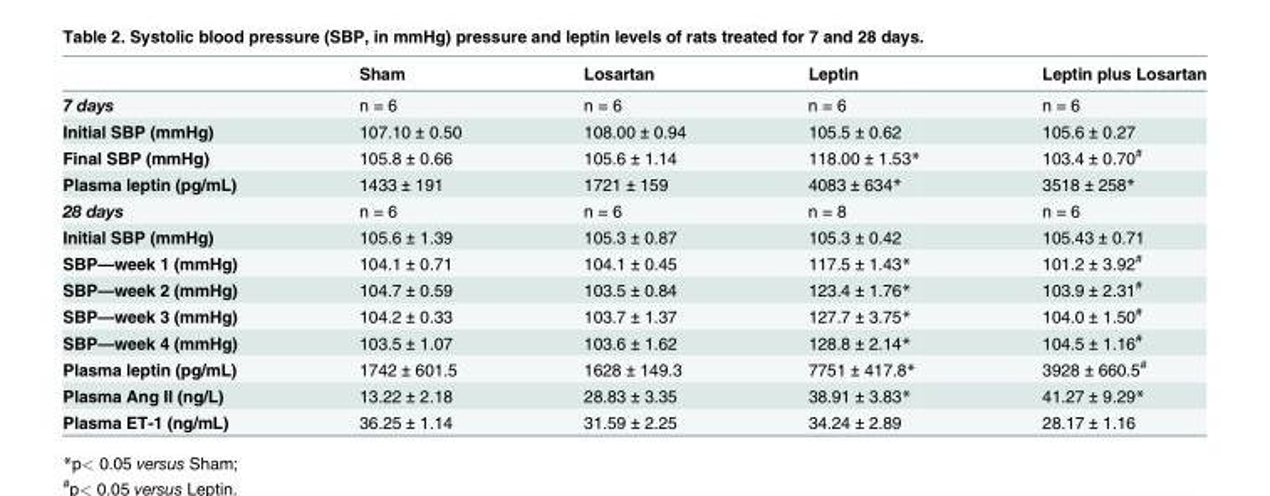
<table><thead><tr><td></td><td>Sham</td><td>Losartan</td><td>Leptin</td><td>Leptin plus Losartan</td></tr></thead><tbody><tr><td>7 days</td><td>n = 6</td><td>n = 6</td><td>n = 6</td><td>n = 6</td></tr><tr><td>Initial SBP (mmHg)</td><td>107.10 ± 0.50</td><td>108.00 ± 0.94</td><td>105.5 ± 0.62</td><td>105.6 ± 0.27</td></tr><tr><td>Final SBP (mmHg)</td><td>105.8 ± 0.66</td><td>105.6 ± 1.14</td><td>118.00 ± 1.53*</td><td>103.4 ± 0.70<sup>#</sup></td></tr><tr><td>Plasma leptin (pg/mL)</td><td>1433 ± 191</td><td>1721 ± 159</td><td>4083 ± 634*</td><td>3518 ± 258*</td></tr><tr><td>28 days</td><td>n = 6</td><td>n = 6</td><td>n = 8</td><td>n = 6</td></tr><tr><td>Initial SBP (mmHg)</td><td>105.6 ± 1.39</td><td>105.3 ± 0.87</td><td>105.3 ± 0.42</td><td>105.43 ± 0.71</td></tr><tr><td>SBP—week 1 (mmHg)</td><td>104.1 ± 0.71</td><td>104.1 ± 0.45</td><td>117.5 ± 1.43*</td><td>101.2 ± 3.92<sup>#</sup></td></tr><tr><td>SBP—week 2 (mmHg)</td><td>104.7 ± 0.59</td><td>103.5 ± 0.84</td><td>123.4 ± 1.76*</td><td>103.9 ± 2.31<sup>#</sup></td></tr><tr><td>SBP—week 3 (mmHg)</td><td>104.2 ± 0.33</td><td>103.7 ± 1.37</td><td>127.7 ± 3.75*</td><td>104.0 ± 1.50<sup>#</sup></td></tr><tr><td>SBP—week 4 (mmHg)</td><td>103.5 ± 1.07</td><td>103.6 ± 1.62</td><td>128.8 ± 2.14*</td><td>104.5 ± 1.16<sup>#</sup></td></tr><tr><td>Plasma leptin (pg/mL)</td><td>1742 ± 601.5</td><td>1628 ± 149.3</td><td>7751 ± 417.8*</td><td>3928 ± 660.5<sup>#</sup></td></tr><tr><td>Plasma Ang II (ng/L)</td><td>13.22 ± 2.18</td><td>28.83 ± 3.35</td><td>38.91 ± 3.83*</td><td>41.27 ± 9.29*</td></tr><tr><td>Plasma ET-1 (ng/mL)</td><td>36.25 ± 1.14</td><td>31.59 ± 2.25</td><td>34.24 ± 2.89</td><td>28.17 ± 1.16</td></tr></tbody></table>